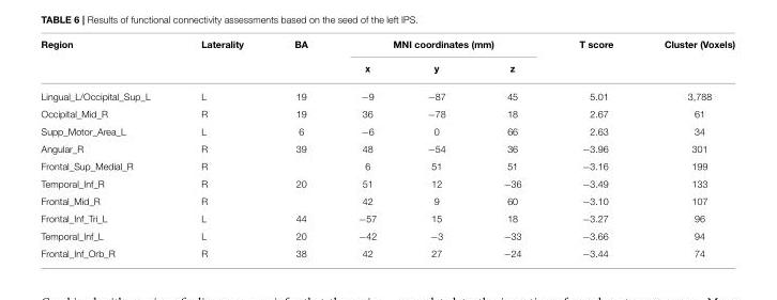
<table><thead><tr><td rowspan="2">Region</td><td rowspan="2">Laterality</td><td rowspan="2">BA</td><td colspan="3">MNI coordinates (mm)</td><td rowspan="2">T score</td><td rowspan="2">Cluster (Voxels)</td></tr><tr><td>x</td><td>y</td><td>z</td></tr></thead><tbody><tr><td>Lingual_L/Occipital_Sup_L</td><td>L</td><td>19</td><td>−9</td><td>−87</td><td>45</td><td>5.01</td><td>3,788</td></tr><tr><td>Occipital_Mid_R</td><td>R</td><td>19</td><td>36</td><td>−78</td><td>18</td><td>2.67</td><td>61</td></tr><tr><td>Supp_Motor_Area_L</td><td>L</td><td>6</td><td>−6</td><td>0</td><td>66</td><td>2.63</td><td>34</td></tr><tr><td>Angular_R</td><td>R</td><td>39</td><td>48</td><td>−54</td><td>36</td><td>−3.96</td><td>301</td></tr><tr><td>Frontal_Sup_Medial_R</td><td>R</td><td></td><td>6</td><td>51</td><td>51</td><td>−3.16</td><td>199</td></tr><tr><td>Temporal_Inf_R</td><td>R</td><td>20</td><td>51</td><td>12</td><td>−36</td><td>−3.49</td><td>133</td></tr><tr><td>Frontal_Mid_R</td><td>R</td><td></td><td>42</td><td>9</td><td>60</td><td>−3.10</td><td>107</td></tr><tr><td>Frontal_Inf_Tri_L</td><td>L</td><td>44</td><td>−57</td><td>15</td><td>18</td><td>−3.27</td><td>96</td></tr><tr><td>Temporal_Inf_L</td><td>L</td><td>20</td><td>−42</td><td>−3</td><td>−33</td><td>−3.66</td><td>94</td></tr><tr><td>Frontal_Inf_Orb_R</td><td>R</td><td>38</td><td>42</td><td>27</td><td>−24</td><td>−3.44</td><td>74</td></tr></tbody></table>